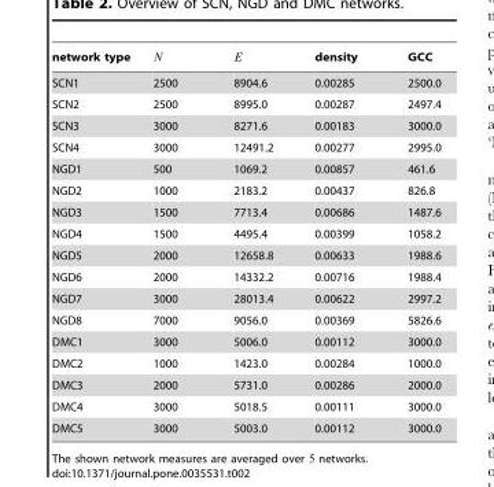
<table><thead><tr><td>network type</td><td>N</td><td>E</td><td>density</td><td>GCC</td></tr></thead><tbody><tr><td>SCN1</td><td>2500</td><td>8904.6</td><td>0.00285</td><td>2500.0</td></tr><tr><td>SCN2</td><td>2500</td><td>8995.0</td><td>0.00287</td><td>2497.4</td></tr><tr><td>SCN3</td><td>3000</td><td>8271.6</td><td>0.00183</td><td>3000.0</td></tr><tr><td>SCN4</td><td>3000</td><td>12491.2</td><td>0.00277</td><td>2995.0</td></tr><tr><td>NGD1</td><td>500</td><td>1069.2</td><td>0.00857</td><td>461.6</td></tr><tr><td>NGD2</td><td>1000</td><td>2183.2</td><td>0.00437</td><td>826.8</td></tr><tr><td>NGD3</td><td>1500</td><td>7713.4</td><td>0.00686</td><td>1487.6</td></tr><tr><td>NGD4</td><td>1500</td><td>4495.4</td><td>0.00399</td><td>1058.2</td></tr><tr><td>NGD5</td><td>2000</td><td>12658.8</td><td>0.00633</td><td>1988.6</td></tr><tr><td>NGD6</td><td>2000</td><td>14332.2</td><td>0.00716</td><td>1988.4</td></tr><tr><td>NGD7</td><td>3000</td><td>28013.4</td><td>0.00622</td><td>2997.2</td></tr><tr><td>NGD8</td><td>7000</td><td>9056.0</td><td>0.00369</td><td>5826.6</td></tr><tr><td>DMC1</td><td>3000</td><td>5006.0</td><td>0.00112</td><td>3000.0</td></tr><tr><td>DMC2</td><td>1000</td><td>1423.0</td><td>0.00284</td><td>1000.0</td></tr><tr><td>DMC3</td><td>2000</td><td>5731.0</td><td>0.00286</td><td>2000.0</td></tr><tr><td>DMC4</td><td>3000</td><td>5018.5</td><td>0.00111</td><td>3000.0</td></tr><tr><td>DMC5</td><td>3000</td><td>5003.0</td><td>0.00112</td><td>3000.0</td></tr></tbody></table>